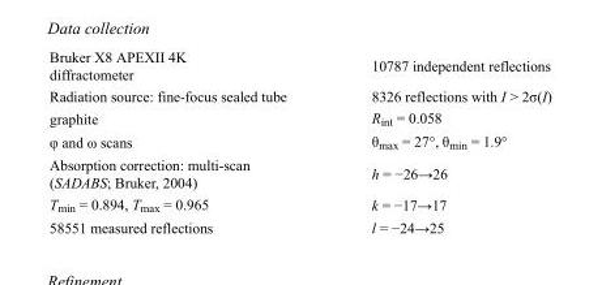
<table><tbody><tr><td>Bruker X8 APEXII 4K diffractometer</td><td>10787 independent reflections</td></tr><tr><td>Radiation source: fine-focus sealed tube</td><td>8326 reflections with I &gt; 2σ(I)</td></tr><tr><td>graphite</td><td>R<sub>int</sub> = 0.058</td></tr><tr><td>φ and ω scans</td><td>θ<sub>max</sub> = 27°, θ<sub>min</sub> = 1.9°</td></tr><tr><td>Absorption correction: multi-scan (SADABS; Bruker, 2004)</td><td>h = −26→26</td></tr><tr><td>T<sub>min</sub> = 0.894, T<sub>max</sub> = 0.965</td><td>k = −17→17</td></tr><tr><td>58551 measured reflections</td><td>l = −24→25</td></tr></tbody></table>